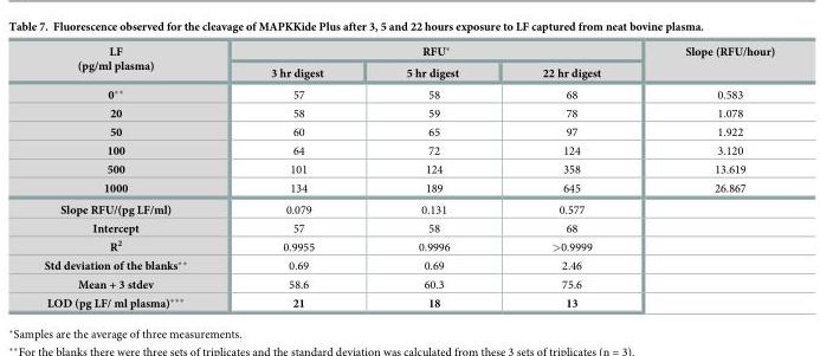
<table><thead><tr><td rowspan="2">LF (pg/ml plasma)</td><td colspan="3">RFU*</td><td rowspan="2">Slope (RFU/hour)</td></tr><tr><td>3 hr digest</td><td>5 hr digest</td><td>22 hr digest</td></tr></thead><tbody><tr><td>0**</td><td>57</td><td>58</td><td>68</td><td>0.583</td></tr><tr><td>20</td><td>58</td><td>59</td><td>78</td><td>1.078</td></tr><tr><td>50</td><td>60</td><td>65</td><td>97</td><td>1.922</td></tr><tr><td>100</td><td>64</td><td>72</td><td>124</td><td>3.120</td></tr><tr><td>500</td><td>101</td><td>124</td><td>358</td><td>13.619</td></tr><tr><td>1000</td><td>134</td><td>189</td><td>645</td><td>26.867</td></tr><tr><td>Slope RFU/(pg LF/ml)</td><td>0.079</td><td>0.131</td><td>0.577</td><td></td></tr><tr><td>Intercept</td><td>57</td><td>58</td><td>68</td><td></td></tr><tr><td>R<sup>2</sup></td><td>0.9955</td><td>0.9996</td><td>&gt;0.9999</td><td></td></tr><tr><td>Std deviation of the blanks**</td><td>0.69</td><td>0.69</td><td>2.46</td><td></td></tr><tr><td>Mean + 3 stdev</td><td>58.6</td><td>60.3</td><td>75.6</td><td></td></tr><tr><td>LOD (pg LF/ ml plasma)***</td><td>21</td><td>18</td><td>13</td><td></td></tr></tbody></table>